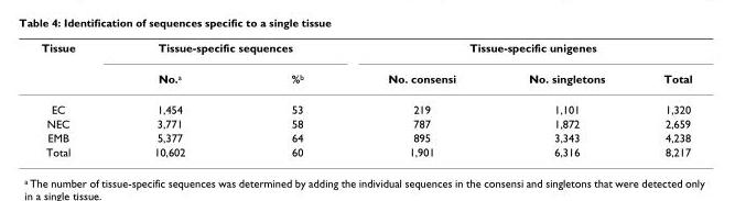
<table><thead><tr><td rowspan="2">Tissue</td><td colspan="2">Tissue-specific sequences</td><td colspan="3">Tissue-specific unigenes</td></tr><tr><td>No.<sup>a</sup></td><td>%<sup>b</sup></td><td>No. consensi</td><td>No. singletons</td><td>Total</td></tr></thead><tbody><tr><td>EC</td><td>1,454</td><td>53</td><td>219</td><td>1,101</td><td>1,320</td></tr><tr><td>NEC</td><td>3,771</td><td>58</td><td>787</td><td>1,872</td><td>2,659</td></tr><tr><td>EMB</td><td>5,377</td><td>64</td><td>895</td><td>3,343</td><td>4,238</td></tr><tr><td>Total</td><td>10,602</td><td>60</td><td>1,901</td><td>6,316</td><td>8,217</td></tr></tbody></table>